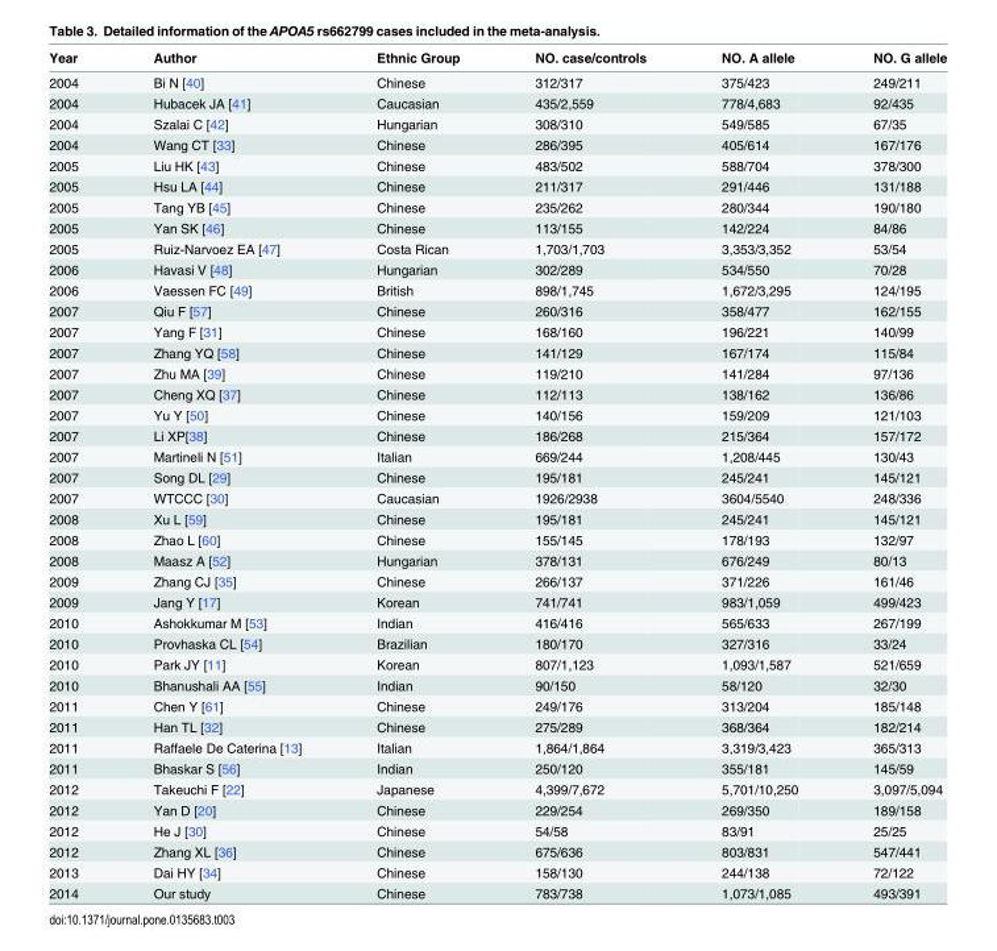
<table><thead><tr><td>Year</td><td>Author</td><td>Ethnic Group</td><td>NO. case/controls</td><td>NO. A allele</td><td>NO. G allele</td></tr></thead><tbody><tr><td>2004</td><td>Bi N [40]</td><td>Chinese</td><td>312/317</td><td>375/423</td><td>249/211</td></tr><tr><td>2004</td><td>Hubacek JA [41]</td><td>Caucasian</td><td>435/2,559</td><td>778/4,683</td><td>92/435</td></tr><tr><td>2004</td><td>Szalai C [42]</td><td>Hungarian</td><td>308/310</td><td>549/585</td><td>67/35</td></tr><tr><td>2004</td><td>Wang CT [33]</td><td>Chinese</td><td>286/395</td><td>405/614</td><td>167/176</td></tr><tr><td>2005</td><td>Liu HK [43]</td><td>Chinese</td><td>483/502</td><td>588/704</td><td>378/300</td></tr><tr><td>2005</td><td>Hsu LA [44]</td><td>Chinese</td><td>211/317</td><td>291/446</td><td>131/188</td></tr><tr><td>2005</td><td>Tang YB [45]</td><td>Chinese</td><td>235/262</td><td>280/344</td><td>190/180</td></tr><tr><td>2005</td><td>Yan SK [46]</td><td>Chinese</td><td>113/155</td><td>142/224</td><td>84/86</td></tr><tr><td>2005</td><td>Ruiz-Narvoez EA [47]</td><td>Costa Rican</td><td>1,703/1,703</td><td>3,353/3,352</td><td>53/54</td></tr><tr><td>2006</td><td>Havasi V [48]</td><td>Hungarian</td><td>302/289</td><td>534/550</td><td>70/28</td></tr><tr><td>2006</td><td>Vaessen FC [49]</td><td>British</td><td>898/1,745</td><td>1,672/3,295</td><td>124/195</td></tr><tr><td>2007</td><td>Qiu F [57]</td><td>Chinese</td><td>260/316</td><td>358/477</td><td>162/155</td></tr><tr><td>2007</td><td>Yang F [31]</td><td>Chinese</td><td>168/160</td><td>196/221</td><td>140/99</td></tr><tr><td>2007</td><td>Zhang YQ [58]</td><td>Chinese</td><td>141/129</td><td>167/174</td><td>115/84</td></tr><tr><td>2007</td><td>Zhu MA [39]</td><td>Chinese</td><td>119/210</td><td>141/284</td><td>97/136</td></tr><tr><td>2007</td><td>Cheng XQ [37]</td><td>Chinese</td><td>112/113</td><td>138/162</td><td>136/86</td></tr><tr><td>2007</td><td>Yu Y [50]</td><td>Chinese</td><td>140/156</td><td>159/209</td><td>121/103</td></tr><tr><td>2007</td><td>Li XP[38]</td><td>Chinese</td><td>186/268</td><td>215/364</td><td>157/172</td></tr><tr><td>2007</td><td>Martineli N [51]</td><td>Italian</td><td>669/244</td><td>1,208/445</td><td>130/43</td></tr><tr><td>2007</td><td>Song DL [29]</td><td>Chinese</td><td>195/181</td><td>245/241</td><td>145/121</td></tr><tr><td>2007</td><td>WTCCC [30]</td><td>Caucasian</td><td>1926/2938</td><td>3604/5540</td><td>248/336</td></tr><tr><td>2008</td><td>Xu L [59]</td><td>Chinese</td><td>195/181</td><td>245/241</td><td>145/121</td></tr><tr><td>2008</td><td>Zhao L [60]</td><td>Chinese</td><td>155/145</td><td>178/193</td><td>132/97</td></tr><tr><td>2008</td><td>Maasz A [52]</td><td>Hungarian</td><td>378/131</td><td>676/249</td><td>80/13</td></tr><tr><td>2009</td><td>Zhang CJ [35]</td><td>Chinese</td><td>266/137</td><td>371/226</td><td>161/46</td></tr><tr><td>2009</td><td>Jang Y [17]</td><td>Korean</td><td>741/741</td><td>983/1,059</td><td>499/423</td></tr><tr><td>2010</td><td>Ashokkumar M [53]</td><td>Indian</td><td>416/416</td><td>565/633</td><td>267/199</td></tr><tr><td>2010</td><td>Provhaska CL [54]</td><td>Brazilian</td><td>180/170</td><td>327/316</td><td>33/24</td></tr><tr><td>2010</td><td>Park JY [11]</td><td>Korean</td><td>807/1,123</td><td>1,093/1,587</td><td>521/659</td></tr><tr><td>2010</td><td>Bhanushali AA [55]</td><td>Indian</td><td>90/150</td><td>58/120</td><td>32/30</td></tr><tr><td>2011</td><td>Chen Y [61]</td><td>Chinese</td><td>249/176</td><td>313/204</td><td>185/148</td></tr><tr><td>2011</td><td>Han TL [32]</td><td>Chinese</td><td>275/289</td><td>368/364</td><td>182/214</td></tr><tr><td>2011</td><td>Raffaele De Caterina [13]</td><td>Italian</td><td>1,864/1,864</td><td>3,319/3,423</td><td>365/313</td></tr><tr><td>2011</td><td>Bhaskar S [56]</td><td>Indian</td><td>250/120</td><td>355/181</td><td>145/59</td></tr><tr><td>2012</td><td>Takeuchi F [22]</td><td>Japanese</td><td>4,399/7,672</td><td>5,701/10,250</td><td>3,097/5,094</td></tr><tr><td>2012</td><td>Yan D [20]</td><td>Chinese</td><td>229/254</td><td>269/350</td><td>189/158</td></tr><tr><td>2012</td><td>He J [30]</td><td>Chinese</td><td>54/58</td><td>83/91</td><td>25/25</td></tr><tr><td>2012</td><td>Zhang XL [36]</td><td>Chinese</td><td>675/636</td><td>803/831</td><td>547/441</td></tr><tr><td>2013</td><td>Dai HY [34]</td><td>Chinese</td><td>158/130</td><td>244/138</td><td>72/122</td></tr><tr><td>2014</td><td>Our study</td><td>Chinese</td><td>783/738</td><td>1,073/1,085</td><td>493/391</td></tr></tbody></table>